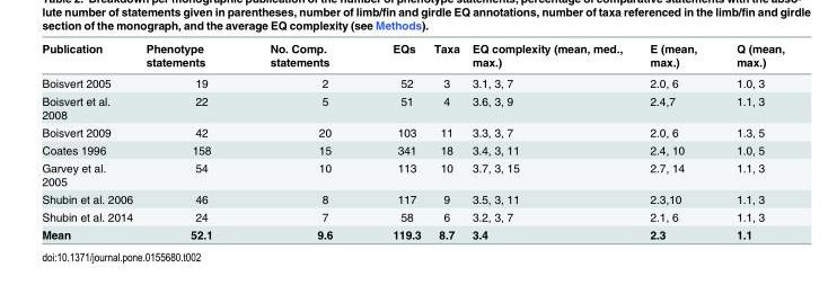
<table><thead><tr><td>Publication</td><td>Phenotype statements</td><td>No. Comp. statements</td><td>EQs</td><td>Taxa</td><td>EQ complexity (mean, med., max.)</td><td>E (mean, max.)</td><td>Q (mean, max.)</td></tr></thead><tbody><tr><td>Boisvert 2005</td><td>19</td><td>2</td><td>52</td><td>3</td><td>3.1, 3, 7</td><td>2.0, 6</td><td>1.0, 3</td></tr><tr><td>Boisvert et al. 2008</td><td>22</td><td>5</td><td>51</td><td>4</td><td>3.6, 3, 9</td><td>2.4,7</td><td>1.1, 3</td></tr><tr><td>Boisvert 2009</td><td>42</td><td>20</td><td>103</td><td>11</td><td>3.3, 3, 7</td><td>2.0, 6</td><td>1.3, 5</td></tr><tr><td>Coates 1996</td><td>158</td><td>15</td><td>341</td><td>18</td><td>3.4, 3, 11</td><td>2.4, 10</td><td>1.0, 5</td></tr><tr><td>Garvey et al. 2005</td><td>54</td><td>10</td><td>113</td><td>10</td><td>3.7, 3, 15</td><td>2.7, 14</td><td>1.1, 3</td></tr><tr><td>Shubin et al. 2006</td><td>46</td><td>8</td><td>117</td><td>9</td><td>3.5, 3, 11</td><td>2.3,10</td><td>1.1, 3</td></tr><tr><td>Shubin et al. 2014</td><td>24</td><td>7</td><td>58</td><td>6</td><td>3.2, 3, 7</td><td>2.1, 6</td><td>1.1, 3</td></tr><tr><td>Mean</td><td>52.1</td><td>9.6</td><td>119.3</td><td>8.7</td><td>3.4</td><td>2.3</td><td>1.1</td></tr></tbody></table>